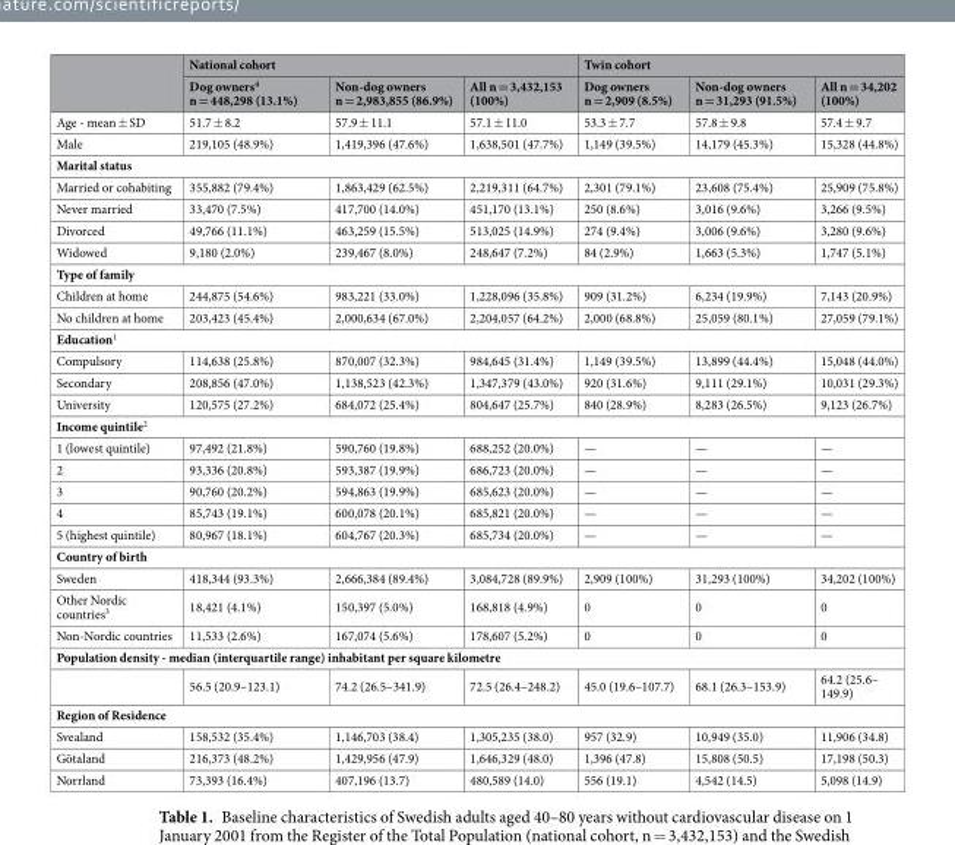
<table><thead><tr><td rowspan="2"></td><td colspan="3">National cohort</td><td colspan="3">Twin cohort</td></tr><tr><td>Dog owners<sup>4</sup> n = 448,298 (13.1%)</td><td>Non-dog owners n = 2,983,855 (86.9%)</td><td>All n = 3,432,153 (100%)</td><td>Dog owners n = 2,909 (8.5%)</td><td>Non-dog owners n = 31,293 (91.5%)</td><td>All n = 34,202 (100%)</td></tr></thead><tbody><tr><td>Age - mean ± SD</td><td>51.7 ± 8.2</td><td>57.9 ± 11.1</td><td>57.1 ± 11.0</td><td>53.3 ± 7.7</td><td>57.8 ± 9.8</td><td>57.4 ± 9.7</td></tr><tr><td>Male</td><td>219,105 (48.9%)</td><td>1,419,396 (47.6%)</td><td>1,638,501 (47.7%)</td><td>1,149 (39.5%)</td><td>14,179 (45.3%)</td><td>15,328 (44.8%)</td></tr><tr><td colspan="7">Marital status</td></tr><tr><td>Married or cohabiting</td><td>355,882 (79.4%)</td><td>1,863,429 (62.5%)</td><td>2,219,311 (64.7%)</td><td>2,301 (79.1%)</td><td>23,608 (75.4%)</td><td>25,909 (75.8%)</td></tr><tr><td>Never married</td><td>33,470 (7.5%)</td><td>417,700 (14.0%)</td><td>451,170 (13.1%)</td><td>250 (8.6%)</td><td>3,016 (9.6%)</td><td>3,266 (9.5%)</td></tr><tr><td>Divorced</td><td>49,766 (11.1%)</td><td>463,259 (15.5%)</td><td>513,025 (14.9%)</td><td>274 (9.4%)</td><td>3,006 (9.6%)</td><td>3,280 (9.6%)</td></tr><tr><td>Widowed</td><td>9,180 (2.0%)</td><td>239,467 (8.0%)</td><td>248,647 (7.2%)</td><td>84 (2.9%)</td><td>1,663 (5.3%)</td><td>1,747 (5.1%)</td></tr><tr><td colspan="7">Type of family</td></tr><tr><td>Children at home</td><td>244,875 (54.6%)</td><td>983,221 (33.0%)</td><td>1,228,096 (35.8%)</td><td>909 (31.2%)</td><td>6,234 (19.9%)</td><td>7,143 (20.9%)</td></tr><tr><td>No children at home</td><td>203,423 (45.4%)</td><td>2,000,634 (67.0%)</td><td>2,204,057 (64.2%)</td><td>2,000 (68.8%)</td><td>25,059 (80.1%)</td><td>27,059 (79.1%)</td></tr><tr><td colspan="7">Education<sup>1</sup></td></tr><tr><td>Compulsory</td><td>114,638 (25.8%)</td><td>870,007 (32.3%)</td><td>984,645 (31.4%)</td><td>1,149 (39.5%)</td><td>13,899 (44.4%)</td><td>15,048 (44.0%)</td></tr><tr><td>Secondary</td><td>208,856 (47.0%)</td><td>1,138,523 (42.3%)</td><td>1,347,379 (43.0%)</td><td>920 (31.6%)</td><td>9,111 (29.1%)</td><td>10,031 (29.3%)</td></tr><tr><td>University</td><td>120,575 (27.2%)</td><td>684,072 (25.4%)</td><td>804,647 (25.7%)</td><td>840 (28.9%)</td><td>8,283 (26.5%)</td><td>9,123 (26.7%)</td></tr><tr><td colspan="7">Income quintile<sup>2</sup></td></tr><tr><td>1 (lowest quintile)</td><td>97,492 (21.8%)</td><td>590,760 (19.8%)</td><td>688,252 (20.0%)</td><td>—</td><td>—</td><td>—</td></tr><tr><td>2</td><td>93,336 (20.8%)</td><td>593,387 (19.9%)</td><td>686,723 (20.0%)</td><td>—</td><td>—</td><td>—</td></tr><tr><td>3</td><td>90,760 (20.2%)</td><td>594,863 (19.9%)</td><td>685,623 (20.0%)</td><td>—</td><td>—</td><td>—</td></tr><tr><td>4</td><td>85,743 (19.1%)</td><td>600,078 (20.1%)</td><td>685,821 (20.0%)</td><td>—</td><td>—</td><td>—</td></tr><tr><td>5 (highest quintile)</td><td>80,967 (18.1%)</td><td>604,767 (20.3%)</td><td>685,734 (20.0%)</td><td>—</td><td>—</td><td>—</td></tr><tr><td colspan="7">Country of birth</td></tr><tr><td>Sweden</td><td>418,344 (93.3%)</td><td>2,666,384 (89.4%)</td><td>3,084,728 (89.9%)</td><td>2,909 (100%)</td><td>31,293 (100%)</td><td>34,202 (100%)</td></tr><tr><td>Other Nordic countries<sup>3</sup></td><td>18,421 (4.1%)</td><td>150,397 (5.0%)</td><td>168,818 (4.9%)</td><td>0</td><td>0</td><td>0</td></tr><tr><td>Non-Nordic countries</td><td>11,533 (2.6%)</td><td>167,074 (5.6%)</td><td>178,607 (5.2%)</td><td>0</td><td>0</td><td>0</td></tr><tr><td colspan="7">Population density - median (interquartile range) inhabitant per square kilometre</td></tr><tr><td></td><td>56.5 (20.9–123.1)</td><td>74.2 (26.5–341.9)</td><td>72.5 (26.4–248.2)</td><td>45.0 (19.6–107.7)</td><td>68.1 (26.3–153.9)</td><td>64.2 (25.6– 149.9)</td></tr><tr><td colspan="7">Region of Residence</td></tr><tr><td>Svealand</td><td>158,532 (35.4%)</td><td>1,146,703 (38.4)</td><td>1,305,235 (38.0)</td><td>957 (32.9)</td><td>10,949 (35.0)</td><td>11,906 (34.8)</td></tr><tr><td>Götaland</td><td>216,373 (48.2%)</td><td>1,429,956 (47.9)</td><td>1,646,329 (48.0)</td><td>1,396 (47.8)</td><td>15,808 (50.5)</td><td>17,198 (50.3)</td></tr><tr><td>Norrland</td><td>73,393 (16.4%)</td><td>407,196 (13.7)</td><td>480,589 (14.0)</td><td>556 (19.1)</td><td>4,542 (14.5)</td><td>5,098 (14.9)</td></tr></tbody></table>